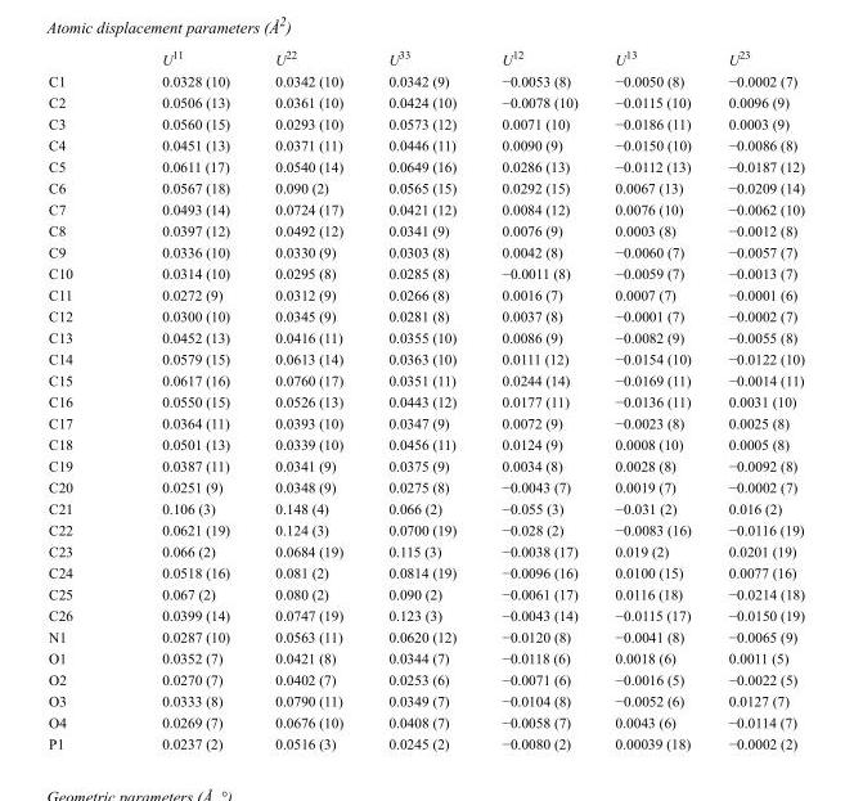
<table><thead><tr><td></td><td>U<sup>11</sup></td><td>U<sup>22</sup></td><td>U<sup>33</sup></td><td>U<sup>12</sup></td><td>U<sup>13</sup></td><td>U<sup>23</sup></td></tr></thead><tbody><tr><td>C1</td><td>0.0328 (10)</td><td>0.0342 (10)</td><td>0.0342 (9)</td><td>−0.0053 (8)</td><td>−0.0050 (8)</td><td>−0.0002 (7)</td></tr><tr><td>C2</td><td>0.0506 (13)</td><td>0.0361 (10)</td><td>0.0424 (10)</td><td>−0.0078 (10)</td><td>−0.0115 (10)</td><td>0.0096 (9)</td></tr><tr><td>C3</td><td>0.0560 (15)</td><td>0.0293 (10)</td><td>0.0573 (12)</td><td>0.0071 (10)</td><td>−0.0186 (11)</td><td>0.0003 (9)</td></tr><tr><td>C4</td><td>0.0451 (13)</td><td>0.0371 (11)</td><td>0.0446 (11)</td><td>0.0090 (9)</td><td>−0.0150 (10)</td><td>−0.0086 (8)</td></tr><tr><td>C5</td><td>0.0611 (17)</td><td>0.0540 (14)</td><td>0.0649 (16)</td><td>0.0286 (13)</td><td>−0.0112 (13)</td><td>−0.0187 (12)</td></tr><tr><td>C6</td><td>0.0567 (18)</td><td>0.090 (2)</td><td>0.0565 (15)</td><td>0.0292 (15)</td><td>0.0067 (13)</td><td>−0.0209 (14)</td></tr><tr><td>C7</td><td>0.0493 (14)</td><td>0.0724 (17)</td><td>0.0421 (12)</td><td>0.0084 (12)</td><td>0.0076 (10)</td><td>−0.0062 (10)</td></tr><tr><td>C8</td><td>0.0397 (12)</td><td>0.0492 (12)</td><td>0.0341 (9)</td><td>0.0076 (9)</td><td>0.0003 (8)</td><td>−0.0012 (8)</td></tr><tr><td>C9</td><td>0.0336 (10)</td><td>0.0330 (9)</td><td>0.0303 (8)</td><td>0.0042 (8)</td><td>−0.0060 (7)</td><td>−0.0057 (7)</td></tr><tr><td>C10</td><td>0.0314 (10)</td><td>0.0295 (8)</td><td>0.0285 (8)</td><td>−0.0011 (8)</td><td>−0.0059 (7)</td><td>−0.0013 (7)</td></tr><tr><td>C11</td><td>0.0272 (9)</td><td>0.0312 (9)</td><td>0.0266 (8)</td><td>0.0016 (7)</td><td>0.0007 (7)</td><td>−0.0001 (6)</td></tr><tr><td>C12</td><td>0.0300 (10)</td><td>0.0345 (9)</td><td>0.0281 (8)</td><td>0.0037 (8)</td><td>−0.0001 (7)</td><td>−0.0002 (7)</td></tr><tr><td>C13</td><td>0.0452 (13)</td><td>0.0416 (11)</td><td>0.0355 (10)</td><td>0.0086 (9)</td><td>−0.0082 (9)</td><td>−0.0055 (8)</td></tr><tr><td>C14</td><td>0.0579 (15)</td><td>0.0613 (14)</td><td>0.0363 (10)</td><td>0.0111 (12)</td><td>−0.0154 (10)</td><td>−0.0122 (10)</td></tr><tr><td>C15</td><td>0.0617 (16)</td><td>0.0760 (17)</td><td>0.0351 (11)</td><td>0.0244 (14)</td><td>−0.0169 (11)</td><td>−0.0014 (11)</td></tr><tr><td>C16</td><td>0.0550 (15)</td><td>0.0526 (13)</td><td>0.0443 (12)</td><td>0.0177 (11)</td><td>−0.0136 (11)</td><td>0.0031 (10)</td></tr><tr><td>C17</td><td>0.0364 (11)</td><td>0.0393 (10)</td><td>0.0347 (9)</td><td>0.0072 (9)</td><td>−0.0023 (8)</td><td>0.0025 (8)</td></tr><tr><td>C18</td><td>0.0501 (13)</td><td>0.0339 (10)</td><td>0.0456 (11)</td><td>0.0124 (9)</td><td>0.0008 (10)</td><td>0.0005 (8)</td></tr><tr><td>C19</td><td>0.0387 (11)</td><td>0.0341 (9)</td><td>0.0375 (9)</td><td>0.0034 (8)</td><td>0.0028 (8)</td><td>−0.0092 (8)</td></tr><tr><td>C20</td><td>0.0251 (9)</td><td>0.0348 (9)</td><td>0.0275 (8)</td><td>−0.0043 (7)</td><td>0.0019 (7)</td><td>−0.0002 (7)</td></tr><tr><td>C21</td><td>0.106 (3)</td><td>0.148 (4)</td><td>0.066 (2)</td><td>−0.055 (3)</td><td>−0.031 (2)</td><td>0.016 (2)</td></tr><tr><td>C22</td><td>0.0621 (19)</td><td>0.124 (3)</td><td>0.0700 (19)</td><td>−0.028 (2)</td><td>−0.0083 (16)</td><td>−0.0116 (19)</td></tr><tr><td>C23</td><td>0.066 (2)</td><td>0.0684 (19)</td><td>0.115 (3)</td><td>−0.0038 (17)</td><td>0.019 (2)</td><td>0.0201 (19)</td></tr><tr><td>C24</td><td>0.0518 (16)</td><td>0.081 (2)</td><td>0.0814 (19)</td><td>−0.0096 (16)</td><td>0.0100 (15)</td><td>0.0077 (16)</td></tr><tr><td>C25</td><td>0.067 (2)</td><td>0.080 (2)</td><td>0.090 (2)</td><td>−0.0061 (17)</td><td>0.0116 (18)</td><td>−0.0214 (18)</td></tr><tr><td>C26</td><td>0.0399 (14)</td><td>0.0747 (19)</td><td>0.123 (3)</td><td>−0.0043 (14)</td><td>−0.0115 (17)</td><td>−0.0150 (19)</td></tr><tr><td>N1</td><td>0.0287 (10)</td><td>0.0563 (11)</td><td>0.0620 (12)</td><td>−0.0120 (8)</td><td>−0.0041 (8)</td><td>−0.0065 (9)</td></tr><tr><td>O1</td><td>0.0352 (7)</td><td>0.0421 (8)</td><td>0.0344 (7)</td><td>−0.0118 (6)</td><td>0.0018 (6)</td><td>0.0011 (5)</td></tr><tr><td>O2</td><td>0.0270 (7)</td><td>0.0402 (7)</td><td>0.0253 (6)</td><td>−0.0071 (6)</td><td>−0.0016 (5)</td><td>−0.0022 (5)</td></tr><tr><td>O3</td><td>0.0333 (8)</td><td>0.0790 (11)</td><td>0.0349 (7)</td><td>−0.0104 (8)</td><td>−0.0052 (6)</td><td>0.0127 (7)</td></tr><tr><td>O4</td><td>0.0269 (7)</td><td>0.0676 (10)</td><td>0.0408 (7)</td><td>−0.0058 (7)</td><td>0.0043 (6)</td><td>−0.0114 (7)</td></tr><tr><td>P1</td><td>0.0237 (2)</td><td>0.0516 (3)</td><td>0.0245 (2)</td><td>−0.0080 (2)</td><td>0.00039 (18)</td><td>−0.0002 (2)</td></tr></tbody></table>